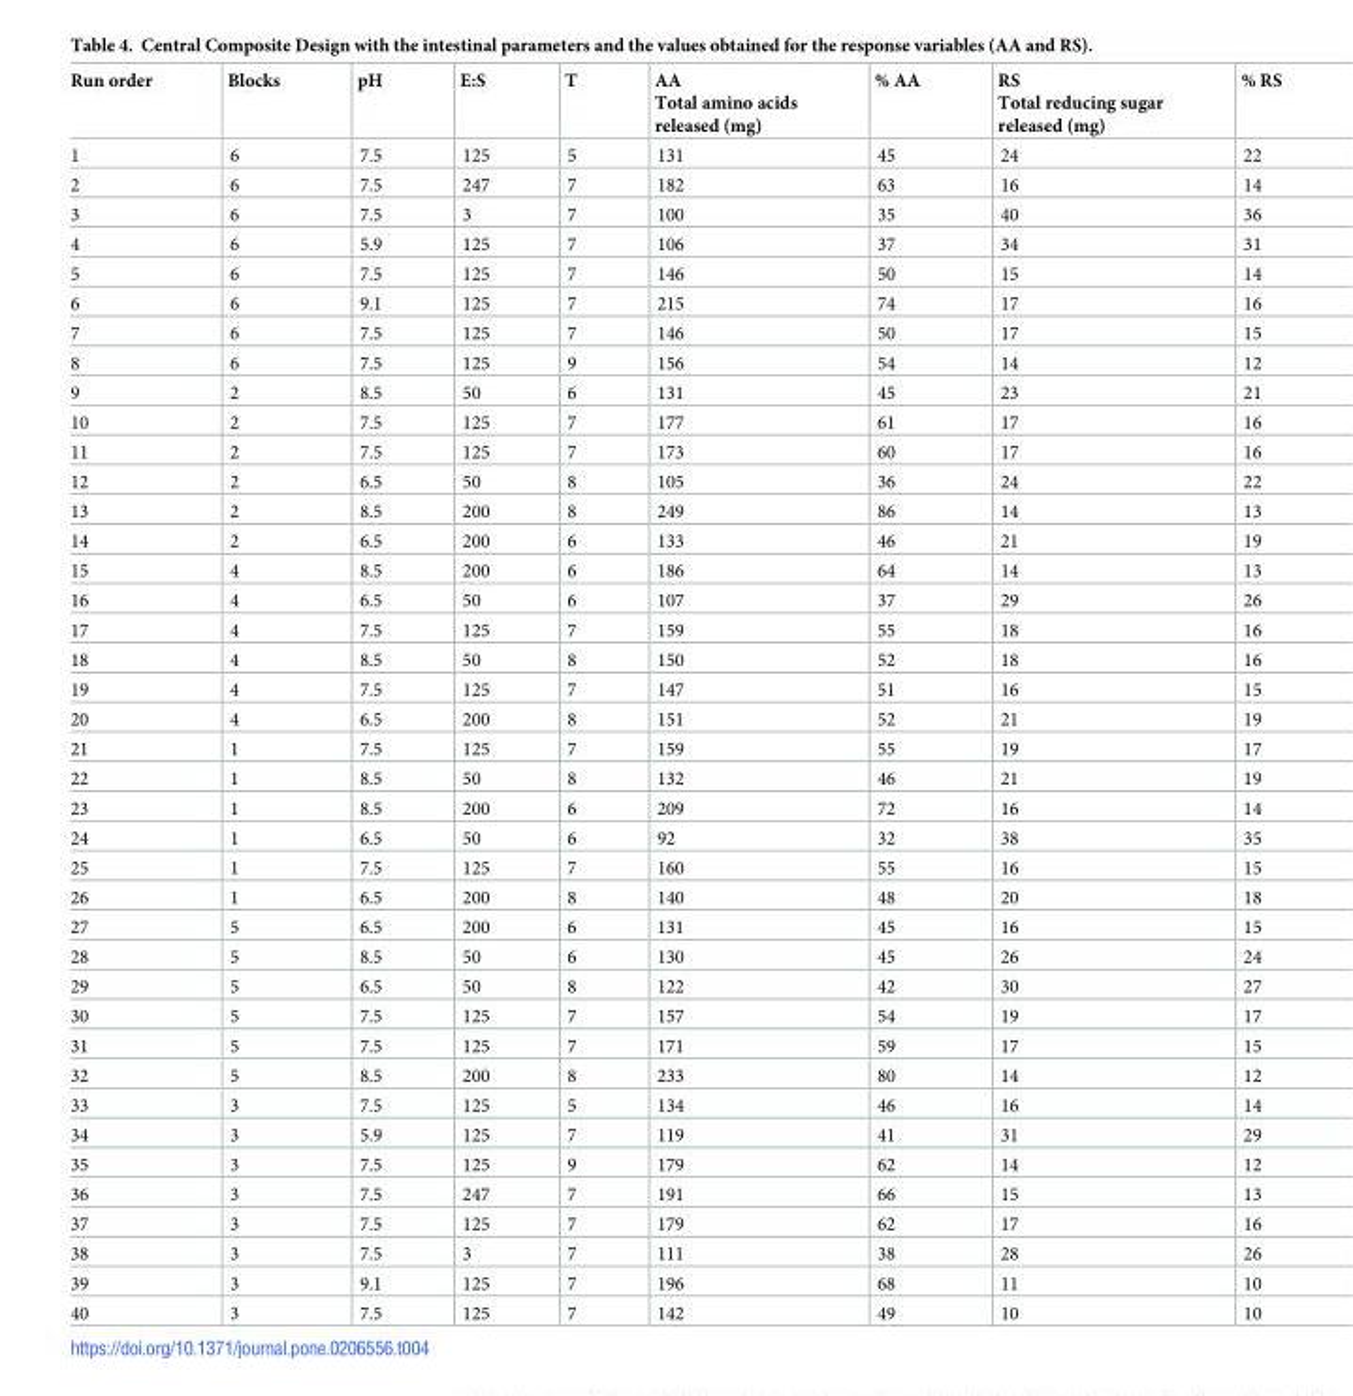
<table><thead><tr><td>Run order</td><td>Blocks</td><td>pH</td><td>E:S</td><td>T</td><td>AA Total amino acids released (mg)</td><td>% AA</td><td>RS Total reducing sugar released (mg)</td><td>% RS</td></tr></thead><tbody><tr><td>1</td><td>6</td><td>7.5</td><td>125</td><td>5</td><td>131</td><td>45</td><td>24</td><td>22</td></tr><tr><td>2</td><td>6</td><td>7.5</td><td>247</td><td>7</td><td>182</td><td>63</td><td>16</td><td>14</td></tr><tr><td>3</td><td>6</td><td>7.5</td><td>3</td><td>7</td><td>100</td><td>35</td><td>40</td><td>36</td></tr><tr><td>4</td><td>6</td><td>5.9</td><td>125</td><td>7</td><td>106</td><td>37</td><td>34</td><td>31</td></tr><tr><td>5</td><td>6</td><td>7.5</td><td>125</td><td>7</td><td>146</td><td>50</td><td>15</td><td>14</td></tr><tr><td>6</td><td>6</td><td>9.1</td><td>125</td><td>7</td><td>215</td><td>74</td><td>17</td><td>16</td></tr><tr><td>7</td><td>6</td><td>7.5</td><td>125</td><td>7</td><td>146</td><td>50</td><td>17</td><td>15</td></tr><tr><td>8</td><td>6</td><td>7.5</td><td>125</td><td>9</td><td>156</td><td>54</td><td>14</td><td>12</td></tr><tr><td>9</td><td>2</td><td>8.5</td><td>50</td><td>6</td><td>131</td><td>45</td><td>23</td><td>21</td></tr><tr><td>10</td><td>2</td><td>7.5</td><td>125</td><td>7</td><td>177</td><td>61</td><td>17</td><td>16</td></tr><tr><td>11</td><td>2</td><td>7.5</td><td>125</td><td>7</td><td>173</td><td>60</td><td>17</td><td>16</td></tr><tr><td>12</td><td>2</td><td>6.5</td><td>50</td><td>8</td><td>105</td><td>36</td><td>24</td><td>22</td></tr><tr><td>13</td><td>2</td><td>8.5</td><td>200</td><td>8</td><td>249</td><td>86</td><td>14</td><td>13</td></tr><tr><td>14</td><td>2</td><td>6.5</td><td>200</td><td>6</td><td>133</td><td>46</td><td>21</td><td>19</td></tr><tr><td>15</td><td>4</td><td>8.5</td><td>200</td><td>6</td><td>186</td><td>64</td><td>14</td><td>13</td></tr><tr><td>16</td><td>4</td><td>6.5</td><td>50</td><td>6</td><td>107</td><td>37</td><td>29</td><td>26</td></tr><tr><td>17</td><td>4</td><td>7.5</td><td>125</td><td>7</td><td>159</td><td>55</td><td>18</td><td>16</td></tr><tr><td>18</td><td>4</td><td>8.5</td><td>50</td><td>8</td><td>150</td><td>52</td><td>18</td><td>16</td></tr><tr><td>19</td><td>4</td><td>7.5</td><td>125</td><td>7</td><td>147</td><td>51</td><td>16</td><td>15</td></tr><tr><td>20</td><td>4</td><td>6.5</td><td>200</td><td>8</td><td>151</td><td>52</td><td>21</td><td>19</td></tr><tr><td>21</td><td>1</td><td>7.5</td><td>125</td><td>7</td><td>159</td><td>55</td><td>19</td><td>17</td></tr><tr><td>22</td><td>1</td><td>8.5</td><td>50</td><td>8</td><td>132</td><td>46</td><td>21</td><td>19</td></tr><tr><td>23</td><td>1</td><td>8.5</td><td>200</td><td>6</td><td>209</td><td>72</td><td>16</td><td>14</td></tr><tr><td>24</td><td>1</td><td>6.5</td><td>50</td><td>6</td><td>92</td><td>32</td><td>38</td><td>35</td></tr><tr><td>25</td><td>1</td><td>7.5</td><td>125</td><td>7</td><td>160</td><td>55</td><td>16</td><td>15</td></tr><tr><td>26</td><td>1</td><td>6.5</td><td>200</td><td>8</td><td>140</td><td>48</td><td>20</td><td>18</td></tr><tr><td>27</td><td>5</td><td>6.5</td><td>200</td><td>6</td><td>131</td><td>45</td><td>16</td><td>15</td></tr><tr><td>28</td><td>5</td><td>8.5</td><td>50</td><td>6</td><td>130</td><td>45</td><td>26</td><td>24</td></tr><tr><td>29</td><td>5</td><td>6.5</td><td>50</td><td>8</td><td>122</td><td>42</td><td>30</td><td>27</td></tr><tr><td>30</td><td>5</td><td>7.5</td><td>125</td><td>7</td><td>157</td><td>54</td><td>19</td><td>17</td></tr><tr><td>31</td><td>5</td><td>7.5</td><td>125</td><td>7</td><td>171</td><td>59</td><td>17</td><td>15</td></tr><tr><td>32</td><td>5</td><td>8.5</td><td>200</td><td>8</td><td>233</td><td>80</td><td>14</td><td>12</td></tr><tr><td>33</td><td>3</td><td>7.5</td><td>125</td><td>5</td><td>134</td><td>46</td><td>16</td><td>14</td></tr><tr><td>34</td><td>3</td><td>5.9</td><td>125</td><td>7</td><td>119</td><td>41</td><td>31</td><td>29</td></tr><tr><td>35</td><td>3</td><td>7.5</td><td>125</td><td>9</td><td>179</td><td>62</td><td>14</td><td>12</td></tr><tr><td>36</td><td>3</td><td>7.5</td><td>247</td><td>7</td><td>191</td><td>66</td><td>15</td><td>13</td></tr><tr><td>37</td><td>3</td><td>7.5</td><td>125</td><td>7</td><td>179</td><td>62</td><td>17</td><td>16</td></tr><tr><td>38</td><td>3</td><td>7.5</td><td>3</td><td>7</td><td>111</td><td>38</td><td>28</td><td>26</td></tr><tr><td>39</td><td>3</td><td>9.1</td><td>125</td><td>7</td><td>196</td><td>68</td><td>11</td><td>10</td></tr><tr><td>40</td><td>3</td><td>7.5</td><td>125</td><td>7</td><td>142</td><td>49</td><td>10</td><td>10</td></tr></tbody></table>